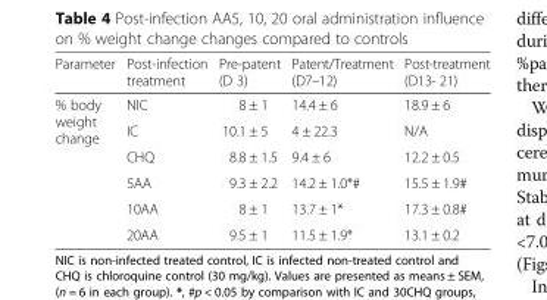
<table><thead><tr><td>Parameter</td><td>Post-infection treatment</td><td>Pre-patent (D 3)</td><td>Patent/Treatment (D7–12)</td><td>Post-treatment (D13- 21)</td></tr></thead><tbody><tr><td rowspan="6">% body weight change</td><td>NIC</td><td>8 ± 1</td><td>14.4 ± 6</td><td>18.9 ± 6</td></tr><tr><td>IC</td><td>10.1 ± 5</td><td>4 ± 22.3</td><td>N/A</td></tr><tr><td>CHQ</td><td>8.8 ± 1.5</td><td>9.4 ± 6</td><td>12.2 ± 0.5</td></tr><tr><td>5AA</td><td>9.3 ± 2.2</td><td>14.2 ± 1.0*#</td><td>15.5 ± 1.9#</td></tr><tr><td>10AA</td><td>8 ± 1</td><td>13.7 ± 1*</td><td>17.3 ± 0.8#</td></tr><tr><td>20AA</td><td>9.5 ± 1</td><td>11.5 ± 1.9*</td><td>13.1 ± 0.2</td></tr></tbody></table>